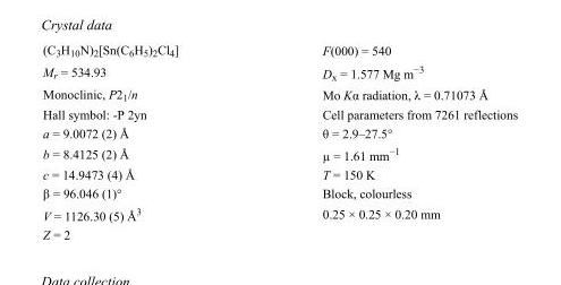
<table><tbody><tr><td>(C<sub>3</sub>H<sub>10</sub>N)<sub>2</sub>[Sn(C<sub>6</sub>H<sub>5</sub>)<sub>2</sub>Cl<sub>4</sub>]</td><td>F(000) = 540</td></tr><tr><td>M<sub>r</sub> = 534.93</td><td>D<sub>x</sub> = 1.577 Mg m<sup>−3</sup></td></tr><tr><td>Monoclinic, P2<sub>1</sub>/n</td><td>Mo Kα radiation, λ = 0.71073 Å</td></tr><tr><td>Hall symbol: -P 2yn</td><td>Cell parameters from 7261 reflections</td></tr><tr><td>a = 9.0072 (2) Å</td><td>θ = 2.9–27.5°</td></tr><tr><td>b = 8.4125 (2) Å</td><td>µ = 1.61 mm<sup>−1</sup></td></tr><tr><td>c = 14.9473 (4) Å</td><td>T = 150 K</td></tr><tr><td>β = 96.046 (1)°</td><td>Block, colourless</td></tr><tr><td>V = 1126.30 (5) Å<sup>3</sup></td><td>0.25 × 0.25 × 0.20 mm</td></tr><tr><td>Z = 2</td><td></td></tr></tbody></table>